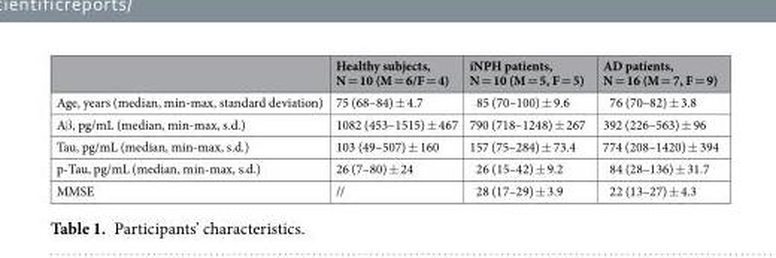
<table><thead><tr><td></td><td>Healthy subjects, N = 10 (M = 6/F = 4)</td><td>iNPH patients, N = 10 (M = 5, F = 5)</td><td>AD patients, N = 16 (M = 7, F = 9)</td></tr></thead><tbody><tr><td>Age, years (median, min-max, standard deviation)</td><td>75 (68–84) ± 4.7</td><td>85 (70–100) ± 9.6</td><td>76 (70–82) ± 3.8</td></tr><tr><td>Aβ, pg/mL (median, min-max, s.d.)</td><td>1082 (453–1515) ± 467</td><td>790 (718–1248) ± 267</td><td>392 (226–563) ± 96</td></tr><tr><td>Tau, pg/mL (median, min-max, s.d.)</td><td>103 (49–507) ± 160</td><td>157 (75–284) ± 73.4</td><td>774 (208–1420) ± 394</td></tr><tr><td>p-Tau, pg/mL (median, min-max, s.d.)</td><td>26 (7–80) ± 24</td><td>26 (15–42) ± 9.2</td><td>84 (28–136) ± 31.7</td></tr><tr><td>MMSE</td><td>//</td><td>28 (17–29) ± 3.9</td><td>22 (13–27) ± 4.3</td></tr></tbody></table>